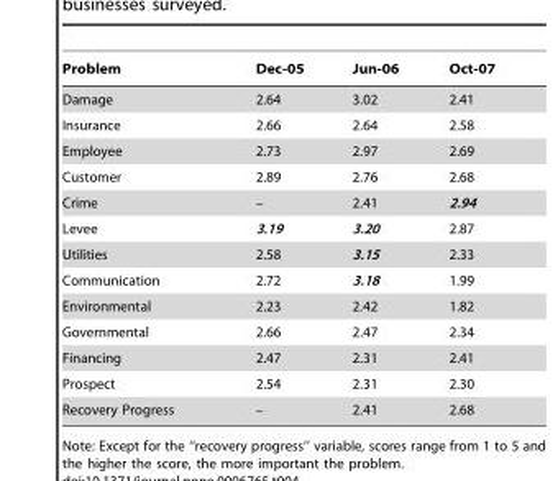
<table><thead><tr><td>Problem</td><td>Dec-05</td><td>Jun-06</td><td>Oct-07</td></tr></thead><tbody><tr><td>Damage</td><td>2.64</td><td>3.02</td><td>2.41</td></tr><tr><td>Insurance</td><td>2.66</td><td>2.64</td><td>2.58</td></tr><tr><td>Employee</td><td>2.73</td><td>2.97</td><td>2.69</td></tr><tr><td>Customer</td><td>2.89</td><td>2.76</td><td>2.68</td></tr><tr><td>Crime</td><td>–</td><td>2.41</td><td>2.94</td></tr><tr><td>Levee</td><td>3.19</td><td>3.20</td><td>2.87</td></tr><tr><td>Utilities</td><td>2.58</td><td>3.15</td><td>2.33</td></tr><tr><td>Communication</td><td>2.72</td><td>3.18</td><td>1.99</td></tr><tr><td>Environmental</td><td>2.23</td><td>2.42</td><td>1.82</td></tr><tr><td>Governmental</td><td>2.66</td><td>2.47</td><td>2.34</td></tr><tr><td>Financing</td><td>2.47</td><td>2.31</td><td>2.41</td></tr><tr><td>Prospect</td><td>2.54</td><td>2.31</td><td>2.30</td></tr><tr><td>Recovery Progress</td><td>–</td><td>2.41</td><td>2.68</td></tr></tbody></table>